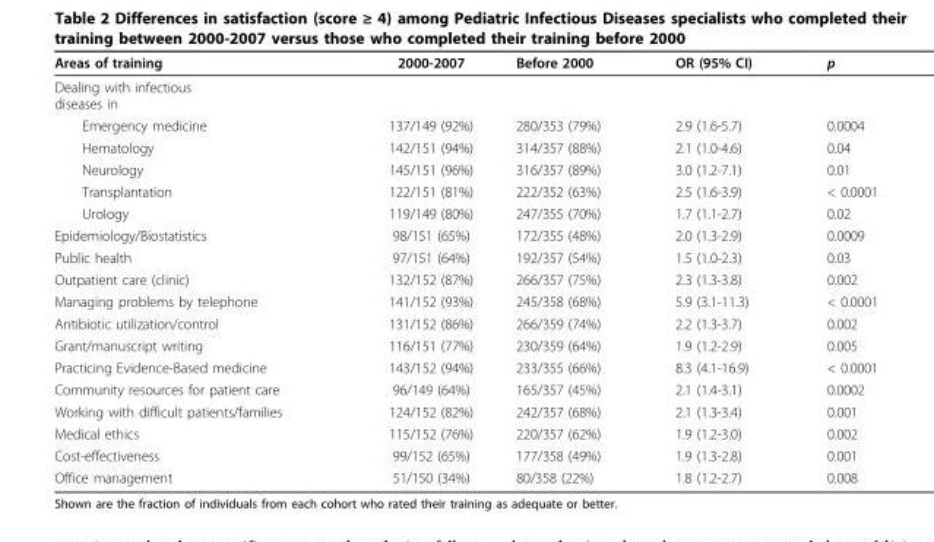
<table><thead><tr><td>Areas of training</td><td>2000-2007</td><td>Before 2000</td><td>OR (95% CI)</td><td>p</td></tr></thead><tbody><tr><td colspan="5">Dealing with infectious diseases in</td></tr><tr><td>Emergency medicine</td><td>137/149 (92%)</td><td>280/353 (79%)</td><td>2.9 (1.6-5.7)</td><td>0.0004</td></tr><tr><td>Hematology</td><td>142/151 (94%)</td><td>314/357 (88%)</td><td>2.1 (1.0-4.6)</td><td>0.04</td></tr><tr><td>Neurology</td><td>145/151 (96%)</td><td>316/357 (89%)</td><td>3.0 (1.2-7.1)</td><td>0.01</td></tr><tr><td>Transplantation</td><td>122/151 (81%)</td><td>222/352 (63%)</td><td>2.5 (1.6-3.9)</td><td>&lt; 0.0001</td></tr><tr><td>Urology</td><td>119/149 (80%)</td><td>247/355 (70%)</td><td>1.7 (1.1-2.7)</td><td>0.02</td></tr><tr><td>Epidemiology/Biostatistics</td><td>98/151 (65%)</td><td>172/355 (48%)</td><td>2.0 (1.3-2.9)</td><td>0.0009</td></tr><tr><td>Public health</td><td>97/151 (64%)</td><td>192/357 (54%)</td><td>1.5 (1.0-2.3)</td><td>0.03</td></tr><tr><td>Outpatient care (clinic)</td><td>132/152 (87%)</td><td>266/357 (75%)</td><td>2.3 (1.3-3.8)</td><td>0.002</td></tr><tr><td>Managing problems by telephone</td><td>141/152 (93%)</td><td>245/358 (68%)</td><td>5.9 (3.1-11.3)</td><td>&lt; 0.0001</td></tr><tr><td>Antibiotic utilization/control</td><td>131/152 (86%)</td><td>266/359 (74%)</td><td>2.2 (1.3-3.7)</td><td>0.002</td></tr><tr><td>Grant/manuscript writing</td><td>116/151 (77%)</td><td>230/359 (64%)</td><td>1.9 (1.2-2.9)</td><td>0.005</td></tr><tr><td>Practicing Evidence-Based medicine</td><td>143/152 (94%)</td><td>233/355 (66%)</td><td>8.3 (4.1-16.9)</td><td>&lt; 0.0001</td></tr><tr><td>Community resources for patient care</td><td>96/149 (64%)</td><td>165/357 (45%)</td><td>2.1 (1.4-3.1)</td><td>0.0002</td></tr><tr><td>Working with difficult patients/families</td><td>124/152 (82%)</td><td>242/357 (68%)</td><td>2.1 (1.3-3.4)</td><td>0.001</td></tr><tr><td>Medical ethics</td><td>115/152 (76%)</td><td>220/357 (62%)</td><td>1.9 (1.2-3.0)</td><td>0.002</td></tr><tr><td>Cost-effectiveness</td><td>99/152 (65%)</td><td>177/358 (49%)</td><td>1.9 (1.3-2.8)</td><td>0.001</td></tr><tr><td>Office management</td><td>51/150 (34%)</td><td>80/358 (22%)</td><td>1.8 (1.2-2.7)</td><td>0.008</td></tr></tbody></table>